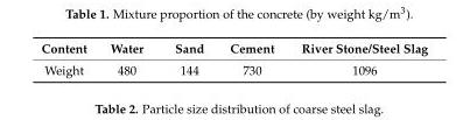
<table><thead><tr><td>Content</td><td>Water</td><td>Sand</td><td>Cement</td><td>River Stone/Steel Slag</td></tr></thead><tbody><tr><td>Weight</td><td>480</td><td>144</td><td>730</td><td>1096</td></tr></tbody></table>